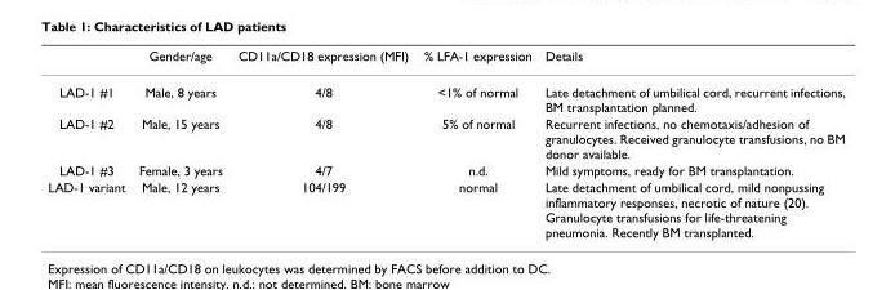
<table><thead><tr><td></td><td>Gender/age</td><td>CD11a/CD18 expression (MFI)</td><td>% LFA-1 expression</td><td>Details</td></tr></thead><tbody><tr><td>LAD-1 #1</td><td>Male, 8 years</td><td>4/8</td><td>&lt;1% of normal</td><td>Late detachment of umbilical cord, recurrent infections, BM transplantation planned.</td></tr><tr><td>LAD-1 #2</td><td>Male, 15 years</td><td>4/8</td><td>5% of normal</td><td>Recurrent infections, no chemotaxis/adhesion of granulocytes. Received granulocyte transfusions, no BM donor available.</td></tr><tr><td>LAD-1 #3</td><td>Female, 3 years</td><td>4/7</td><td>n.d.</td><td>Mild symptoms, ready for BM transplantation.</td></tr><tr><td>LAD-1 variant</td><td>Male, 12 years</td><td>104/199</td><td>normal</td><td>Late detachment of umbilical cord, mild nonpussing inflammatory responses, necrotic of nature (20). Granulocyte transfusions for life-threatening pneumonia. Recently BM transplanted.</td></tr></tbody></table>